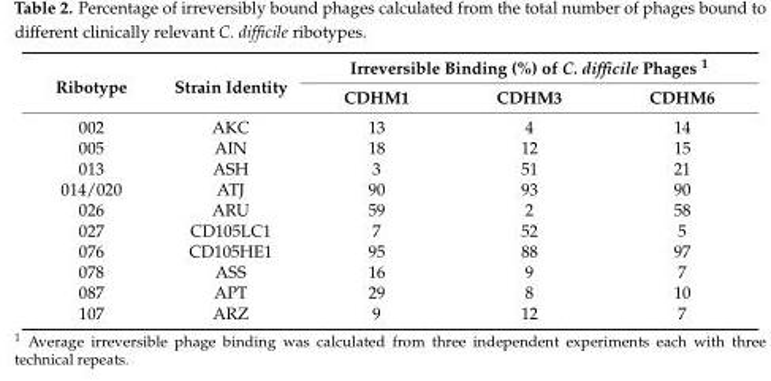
<table><thead><tr><td rowspan="2">Ribotype</td><td rowspan="2">Strain Identity</td><td colspan="3">Irreversible Binding (%) of C. difficile Phages <sup>1</sup></td></tr><tr><td>CDHM1</td><td>CDHM3</td><td>CDHM6</td></tr></thead><tbody><tr><td>002</td><td>AKC</td><td>13</td><td>4</td><td>14</td></tr><tr><td>005</td><td>AIN</td><td>18</td><td>12</td><td>15</td></tr><tr><td>013</td><td>ASH</td><td>3</td><td>51</td><td>21</td></tr><tr><td>014/020</td><td>ATJ</td><td>90</td><td>93</td><td>90</td></tr><tr><td>026</td><td>ARU</td><td>59</td><td>2</td><td>58</td></tr><tr><td>027</td><td>CD105LC1</td><td>7</td><td>52</td><td>5</td></tr><tr><td>076</td><td>CD105HE1</td><td>95</td><td>88</td><td>97</td></tr><tr><td>078</td><td>ASS</td><td>16</td><td>9</td><td>7</td></tr><tr><td>087</td><td>APT</td><td>29</td><td>8</td><td>10</td></tr><tr><td>107</td><td>ARZ</td><td>9</td><td>12</td><td>7</td></tr></tbody></table>